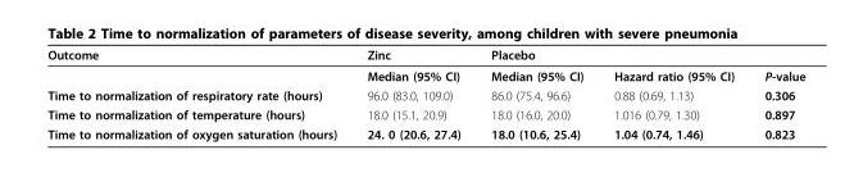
<table><thead><tr><td>Outcome</td><td>Zinc</td><td>Placebo</td><td></td><td></td></tr></thead><tbody><tr><td></td><td>Median (95% CI)</td><td>Median (95% CI)</td><td>Hazard ratio (95% CI)</td><td>P-value</td></tr><tr><td>Time to normalization of respiratory rate (hours)</td><td>96.0 (83.0, 109.0)</td><td>86.0 (75.4, 96.6)</td><td>0.88 (0.69, 1.13)</td><td>0.306</td></tr><tr><td>Time to normalization of temperature (hours)</td><td>18.0 (15.1, 20.9)</td><td>18.0 (16.0, 20.0)</td><td>1.016 (0.79, 1.30)</td><td>0.897</td></tr><tr><td>Time to normalization of oxygen saturation (hours)</td><td>24. 0 (20.6, 27.4)</td><td>18.0 (10.6, 25.4)</td><td>1.04 (0.74, 1.46)</td><td>0.823</td></tr></tbody></table>